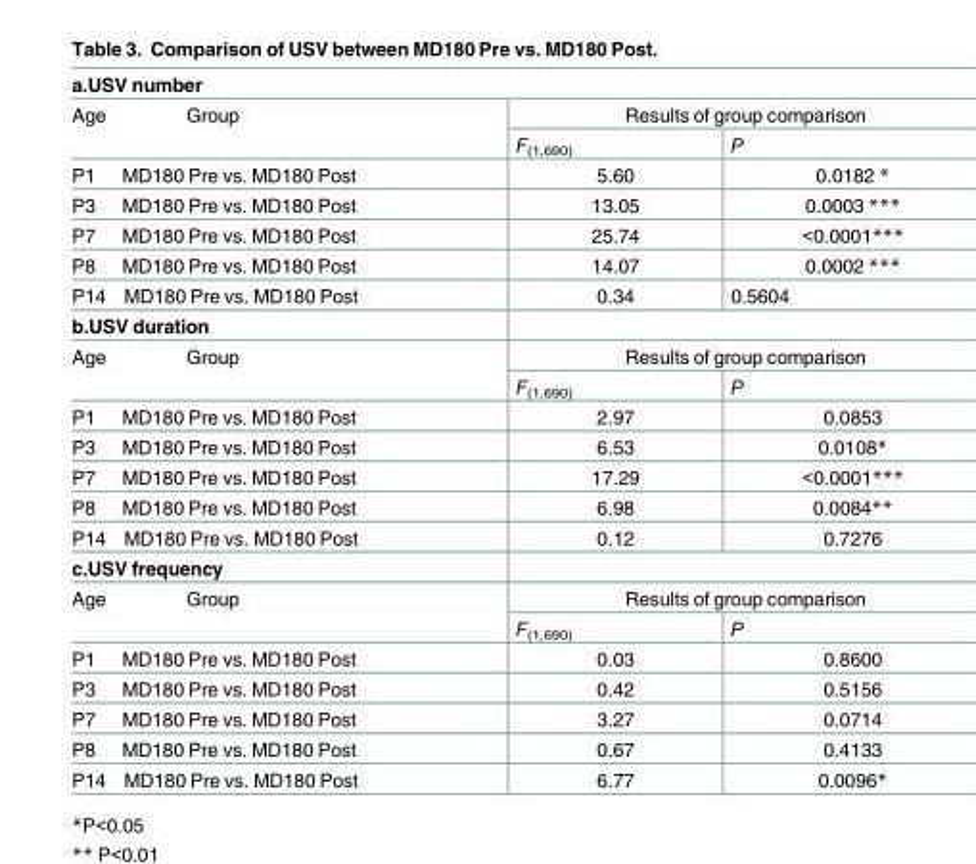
<table><tbody><tr><td colspan="3">a.USV number</td></tr><tr><td rowspan="2">Age Group</td><td colspan="2">Results of group comparison</td></tr><tr><td>F<sub>(1,690)</sub></td><td>P</td></tr><tr><td>P1 MD180 Pre vs. MD180 Post</td><td>5.60</td><td>0.0182 *</td></tr><tr><td>P3 MD180 Pre vs. MD180 Post</td><td>13.05</td><td>0.0003 ***</td></tr><tr><td>P7 MD180 Pre vs. MD180 Post</td><td>25.74</td><td>&lt;0.0001***</td></tr><tr><td>P8 MD180 Pre vs. MD180 Post</td><td>14.07</td><td>0.0002 ***</td></tr><tr><td>P14 MD180 Pre vs. MD180 Post</td><td>0.34</td><td>0.5604</td></tr><tr><td colspan="3">b.USV duration</td></tr><tr><td rowspan="2">Age Group</td><td colspan="2">Results of group comparison</td></tr><tr><td>F<sub>(1,690)</sub></td><td>P</td></tr><tr><td>P1 MD180 Pre vs. MD180 Post</td><td>2.97</td><td>0.0853</td></tr><tr><td>P3 MD180 Pre vs. MD180 Post</td><td>6.53</td><td>0.0108*</td></tr><tr><td>P7 MD180 Pre vs. MD180 Post</td><td>17.29</td><td>&lt;0.0001***</td></tr><tr><td>P8 MD180 Pre vs. MD180 Post</td><td>6.98</td><td>0.0084**</td></tr><tr><td>P14 MD180 Pre vs. MD180 Post</td><td>0.12</td><td>0.7276</td></tr><tr><td colspan="3">c.USV frequency</td></tr><tr><td rowspan="2">Age Group</td><td colspan="2">Results of group comparison</td></tr><tr><td>F<sub>(1,690)</sub></td><td>P</td></tr><tr><td>P1 MD180 Pre vs. MD180 Post</td><td>0.03</td><td>0.8600</td></tr><tr><td>P3 MD180 Pre vs. MD180 Post</td><td>0.42</td><td>0.5156</td></tr><tr><td>P7 MD180 Pre vs. MD180 Post</td><td>3.27</td><td>0.0714</td></tr><tr><td>P8 MD180 Pre vs. MD180 Post</td><td>0.67</td><td>0.4133</td></tr><tr><td>P14 MD180 Pre vs. MD180 Post</td><td>6.77</td><td>0.0096*</td></tr></tbody></table>